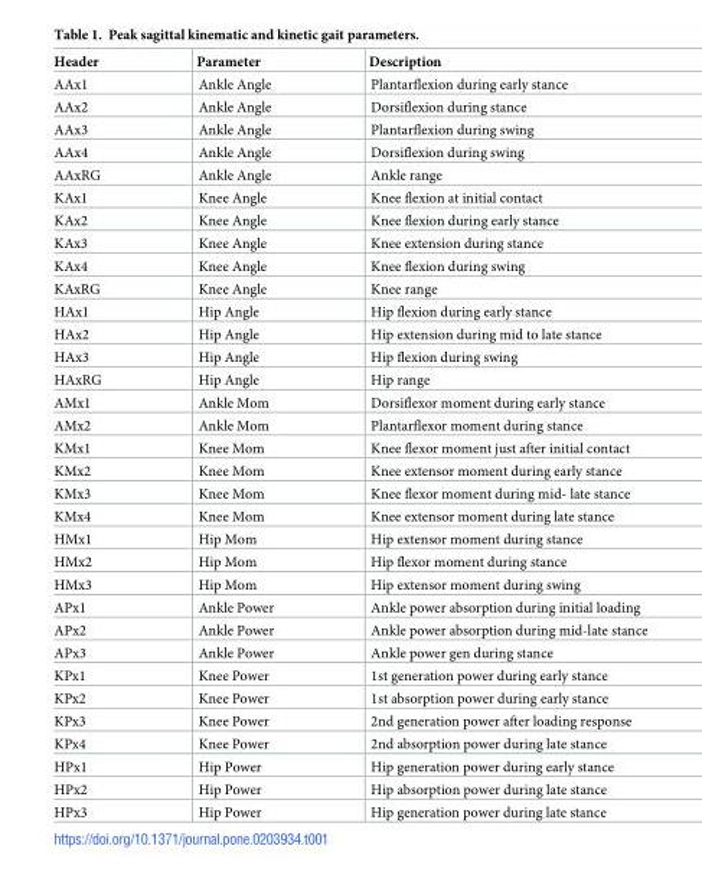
<table><thead><tr><td>Header</td><td>Parameter</td><td>Description</td></tr></thead><tbody><tr><td>AAx1</td><td>Ankle Angle</td><td>Plantarflexion during early stance</td></tr><tr><td>AAx2</td><td>Ankle Angle</td><td>Dorsiflexion during stance</td></tr><tr><td>AAx3</td><td>Ankle Angle</td><td>Plantarflexion during swing</td></tr><tr><td>AAx4</td><td>Ankle Angle</td><td>Dorsiflexion during swing</td></tr><tr><td>AAxRG</td><td>Ankle Angle</td><td>Ankle range</td></tr><tr><td>KAx1</td><td>Knee Angle</td><td>Knee flexion at initial contact</td></tr><tr><td>KAx2</td><td>Knee Angle</td><td>Knee flexion during early stance</td></tr><tr><td>KAx3</td><td>Knee Angle</td><td>Knee extension during stance</td></tr><tr><td>KAx4</td><td>Knee Angle</td><td>Knee flexion during swing</td></tr><tr><td>KAxRG</td><td>Knee Angle</td><td>Knee range</td></tr><tr><td>HAx1</td><td>Hip Angle</td><td>Hip flexion during early stance</td></tr><tr><td>HAx2</td><td>Hip Angle</td><td>Hip extension during mid to late stance</td></tr><tr><td>HAx3</td><td>Hip Angle</td><td>Hip flexion during swing</td></tr><tr><td>HAxRG</td><td>Hip Angle</td><td>Hip range</td></tr><tr><td>AMx1</td><td>Ankle Mom</td><td>Dorsiflexor moment during early stance</td></tr><tr><td>AMx2</td><td>Ankle Mom</td><td>Plantarflexor moment during stance</td></tr><tr><td>KMx1</td><td>Knee Mom</td><td>Knee flexor moment just after initial contact</td></tr><tr><td>KMx2</td><td>Knee Mom</td><td>Knee extensor moment during early stance</td></tr><tr><td>KMx3</td><td>Knee Mom</td><td>Knee flexor moment during mid- late stance</td></tr><tr><td>KMx4</td><td>Knee Mom</td><td>Knee extensor moment during late stance</td></tr><tr><td>HMx1</td><td>Hip Mom</td><td>Hip extensor moment during stance</td></tr><tr><td>HMx2</td><td>Hip Mom</td><td>Hip flexor moment during stance</td></tr><tr><td>HMx3</td><td>Hip Mom</td><td>Hip extensor moment during swing</td></tr><tr><td>APx1</td><td>Ankle Power</td><td>Ankle power absorption during initial loading</td></tr><tr><td>APx2</td><td>Ankle Power</td><td>Ankle power absorption during mid-late stance</td></tr><tr><td>APx3</td><td>Ankle Power</td><td>Ankle power gen during stance</td></tr><tr><td>KPx1</td><td>Knee Power</td><td>1st generation power during early stance</td></tr><tr><td>KPx2</td><td>Knee Power</td><td>1st absorption power during early stance</td></tr><tr><td>KPx3</td><td>Knee Power</td><td>2nd generation power after loading response</td></tr><tr><td>KPx4</td><td>Knee Power</td><td>2nd absorption power during late stance</td></tr><tr><td>HPx1</td><td>Hip Power</td><td>Hip generation power during early stance</td></tr><tr><td>HPx2</td><td>Hip Power</td><td>Hip absorption power during late stance</td></tr><tr><td>HPx3</td><td>Hip Power</td><td>Hip generation power during late stance</td></tr></tbody></table>